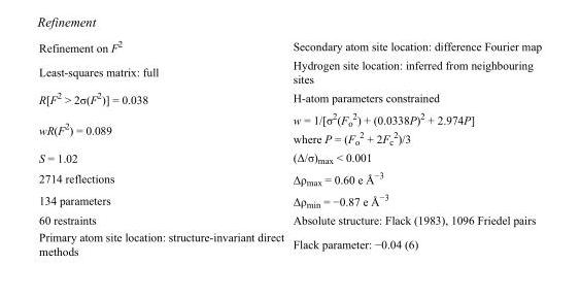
<table><tbody><tr><td>Refinement on F<sup>2</sup></td><td>Secondary atom site location: difference Fourier map</td></tr><tr><td>Least-squares matrix: full</td><td>Hydrogen site location: inferred from neighbouring sites</td></tr><tr><td>R[F<sup>2</sup> &gt; 2σ(F<sup>2</sup>)] = 0.038</td><td>H-atom parameters constrained</td></tr><tr><td>wR(F<sup>2</sup>) = 0.089</td><td>w = 1/[σ<sup>2</sup>(F<sub>o</sub> <sup>2</sup>) + (0.0338P)<sup>2</sup> + 2.974P] where P = (F<sub>o</sub> <sup>2</sup> + 2F<sub>c</sub> <sup>2</sup>)/3</td></tr><tr><td>S = 1.02</td><td>(Δ/σ)<sub>max</sub> &lt; 0.001</td></tr><tr><td>2714 reflections</td><td>Δρ<sub>max</sub> = 0.60 e Å<sup>−3</sup></td></tr><tr><td>134 parameters</td><td>Δρ<sub>min</sub> = −0.87 e Å<sup>−3</sup></td></tr><tr><td>60 restraints</td><td>Absolute structure: Flack (1983), 1096 Friedel pairs</td></tr><tr><td>Primary atom site location: structure-invariant direct methods</td><td>Flack parameter: −0.04 (6)</td></tr></tbody></table>